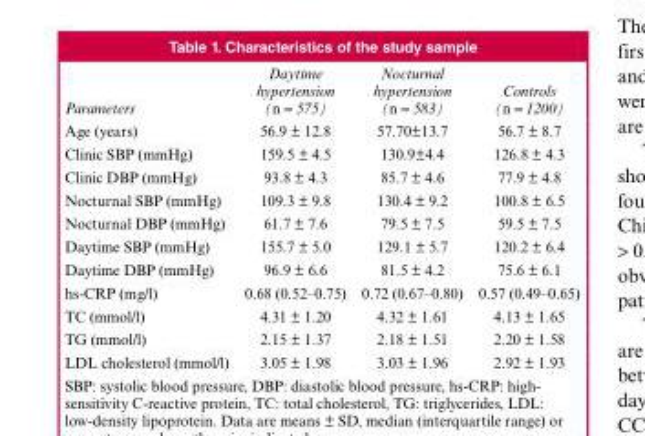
<table><thead><tr><td>Parameters</td><td>Daytime hypertension (n = 575)</td><td>Nocturnal hypertension (n = 583)</td><td>Controls (n = 1200)</td></tr></thead><tbody><tr><td>Age (years)</td><td>56.9 ± 12.8</td><td>57.70±13.7</td><td>56.7 ± 8.7</td></tr><tr><td>Clinic SBP (mmHg)</td><td>159.5 ± 4.5</td><td>130.9±4.4</td><td>126.8 ± 4.3</td></tr><tr><td>Clinic DBP (mmHg)</td><td>93.8 ± 4.3</td><td>85.7 ± 4.6</td><td>77.9 ± 4.8</td></tr><tr><td>Nocturnal SBP (mmHg)</td><td>109.3 ± 9.8</td><td>130.4 ± 9.2</td><td>100.8 ± 6.5</td></tr><tr><td>Nocturnal DBP (mmHg)</td><td>61.7 ± 7.6</td><td>79.5 ± 7.5</td><td>59.5 ± 7.5</td></tr><tr><td>Daytime SBP (mmHg)</td><td>155.7 ± 5.0</td><td>129.1 ± 5.7</td><td>120.2 ± 6.4</td></tr><tr><td>Daytime DBP (mmHg)</td><td>96.9 ± 6.6</td><td>81.5 ± 4.2</td><td>75.6 ± 6.1</td></tr><tr><td>hs-CRP (mg/l)</td><td>0.68 (0.52–0.75)</td><td>0.72 (0.67–0.80)</td><td>0.57 (0.49–0.65)</td></tr><tr><td>TC (mmol/l)</td><td>4.31 ± 1.20</td><td>4.32 ± 1.61</td><td>4.13 ± 1.65</td></tr><tr><td>TG (mmol/l)</td><td>2.15 ± 1.37</td><td>2.18 ± 1.51</td><td>2.20 ± 1.58</td></tr><tr><td>LDL cholesterol (mmol/l)</td><td>3.05 ± 1.98</td><td>3.03 ± 1.96</td><td>2.92 ± 1.93</td></tr></tbody></table>